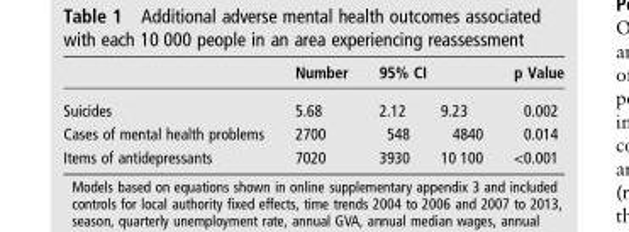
<table><thead><tr><td rowspan="2">Suicides</td><td rowspan="2">Number 5.68</td><td colspan="2">95% CI</td><td rowspan="2">p Value 0.002</td></tr><tr><td>2.12</td><td>9.23</td></tr></thead><tbody><tr><td>Cases of mental health problems</td><td>2700</td><td>548</td><td>4840</td><td>0.014</td></tr><tr><td>Items of antidepressants</td><td>7020</td><td>3930</td><td>10 100</td><td>&lt;0.001</td></tr></tbody></table>